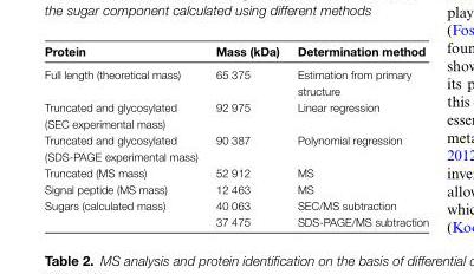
<table><thead><tr><td>Protein</td><td>Mass (kDa)</td><td>Determination method</td></tr></thead><tbody><tr><td>Full length (theoretical mass)</td><td>65 375</td><td>Estimation from primary structure</td></tr><tr><td>Truncated and glycosylated (SEC experimental mass)</td><td>92 975</td><td>Linear regression</td></tr><tr><td>Truncated and glycosylated (SDS-PAGE experimental mass)</td><td>90 387</td><td>Polynomial regression</td></tr><tr><td>Truncated (MS mass)</td><td>52 912</td><td>MS</td></tr><tr><td>Signal peptide (MS mass)</td><td>12 463</td><td>MS</td></tr><tr><td rowspan="2">Sugars (calculated mass)</td><td>40 063</td><td>SEC/MS subtraction</td></tr><tr><td>37 475</td><td>SDS-PAGE/MS subtraction</td></tr></tbody></table>